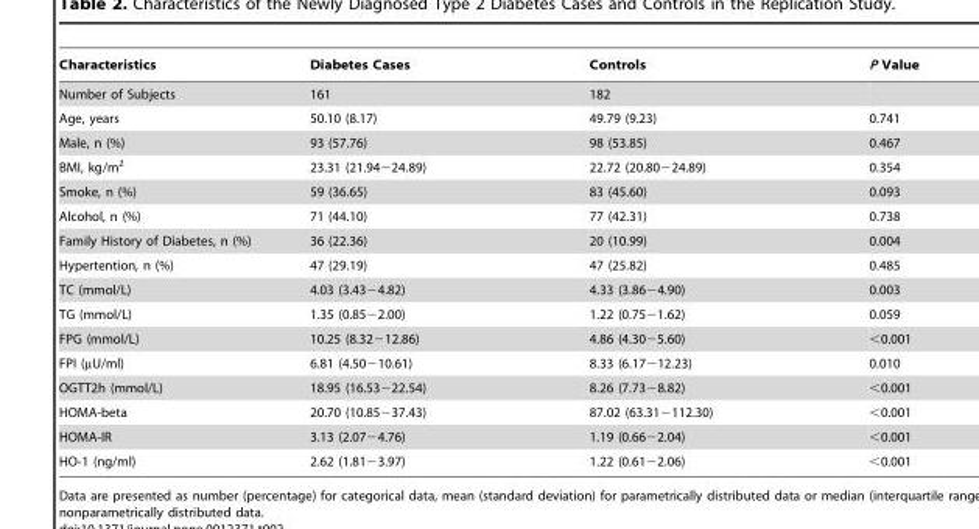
<table><thead><tr><td>Characteristics</td><td>Diabetes Cases</td><td>Controls</td><td>P Value</td></tr></thead><tbody><tr><td>Number of Subjects</td><td>161</td><td>182</td><td></td></tr><tr><td>Age, years</td><td>50.10 (8.17)</td><td>49.79 (9.23)</td><td>0.741</td></tr><tr><td>Male, n (%)</td><td>93 (57.76)</td><td>98 (53.85)</td><td>0.467</td></tr><tr><td>BMI, kg/m<sup>2</sup></td><td>23.31 (21.94−24.89)</td><td>22.72 (20.80−24.89)</td><td>0.354</td></tr><tr><td>Smoke, n (%)</td><td>59 (36.65)</td><td>83 (45.60)</td><td>0.093</td></tr><tr><td>Alcohol, n (%)</td><td>71 (44.10)</td><td>77 (42.31)</td><td>0.738</td></tr><tr><td>Family History of Diabetes, n (%)</td><td>36 (22.36)</td><td>20 (10.99)</td><td>0.004</td></tr><tr><td>Hypertention, n (%)</td><td>47 (29.19)</td><td>47 (25.82)</td><td>0.485</td></tr><tr><td>TC (mmol/L)</td><td>4.03 (3.43−4.82)</td><td>4.33 (3.86−4.90)</td><td>0.003</td></tr><tr><td>TG (mmol/L)</td><td>1.35 (0.85−2.00)</td><td>1.22 (0.75−1.62)</td><td>0.059</td></tr><tr><td>FPG (mmol/L)</td><td>10.25 (8.32−12.86)</td><td>4.86 (4.30−5.60)</td><td>&lt;0.001</td></tr><tr><td>FPI (µU/ml)</td><td>6.81 (4.50−10.61)</td><td>8.33 (6.17−12.23)</td><td>0.010</td></tr><tr><td>OGTT2h (mmol/L)</td><td>18.95 (16.53−22.54)</td><td>8.26 (7.73−8.82)</td><td>&lt;0.001</td></tr><tr><td>HOMA-beta</td><td>20.70 (10.85−37.43)</td><td>87.02 (63.31−112.30)</td><td>&lt;0.001</td></tr><tr><td>HOMA-IR</td><td>3.13 (2.07−4.76)</td><td>1.19 (0.66−2.04)</td><td>&lt;0.001</td></tr><tr><td>HO-1 (ng/ml)</td><td>2.62 (1.81−3.97)</td><td>1.22 (0.61−2.06)</td><td>&lt;0.001</td></tr></tbody></table>